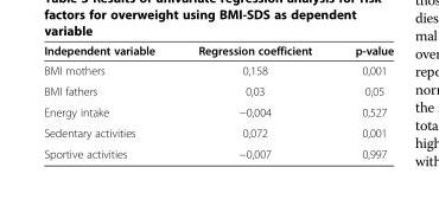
<table><thead><tr><td>Independent variable</td><td>Regression coefficient</td><td>p-value</td></tr></thead><tbody><tr><td>BMI mothers</td><td>0,158</td><td>0,001</td></tr><tr><td>BMI fathers</td><td>0,03</td><td>0,05</td></tr><tr><td>Energy intake</td><td>−0,004</td><td>0,527</td></tr><tr><td>Sedentary activities</td><td>0,072</td><td>0,001</td></tr><tr><td>Sportive activities</td><td>−0,007</td><td>0,997</td></tr></tbody></table>